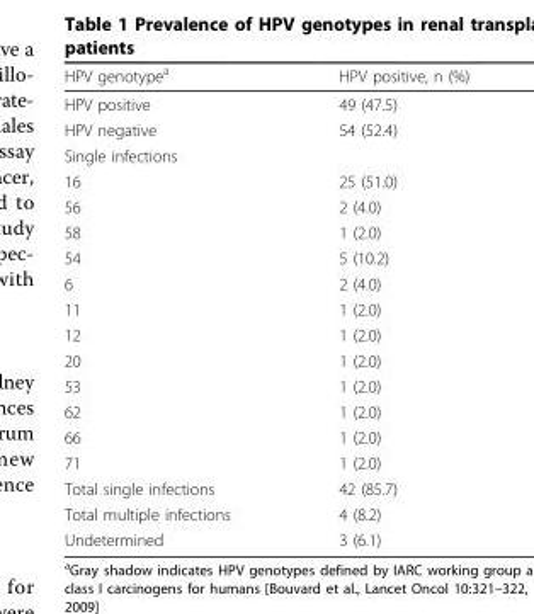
<table><thead><tr><td>HPV genotype<sup>a</sup></td><td>HPV positive, n (%)</td></tr></thead><tbody><tr><td>HPV positive</td><td>49 (47.5)</td></tr><tr><td>HPV negative</td><td>54 (52.4)</td></tr><tr><td colspan="2">Single infections</td></tr><tr><td>16</td><td>25 (51.0)</td></tr><tr><td>56</td><td>2 (4.0)</td></tr><tr><td>58</td><td>1 (2.0)</td></tr><tr><td>54</td><td>5 (10.2)</td></tr><tr><td>6</td><td>2 (4.0)</td></tr><tr><td>11</td><td>1 (2.0)</td></tr><tr><td>12</td><td>1 (2.0)</td></tr><tr><td>20</td><td>1 (2.0)</td></tr><tr><td>53</td><td>1 (2.0)</td></tr><tr><td>62</td><td>1 (2.0)</td></tr><tr><td>66</td><td>1 (2.0)</td></tr><tr><td>71</td><td>1 (2.0)</td></tr><tr><td>Total single infections</td><td>42 (85.7)</td></tr><tr><td>Total multiple infections</td><td>4 (8.2)</td></tr><tr><td>Undetermined</td><td>3 (6.1)</td></tr></tbody></table>